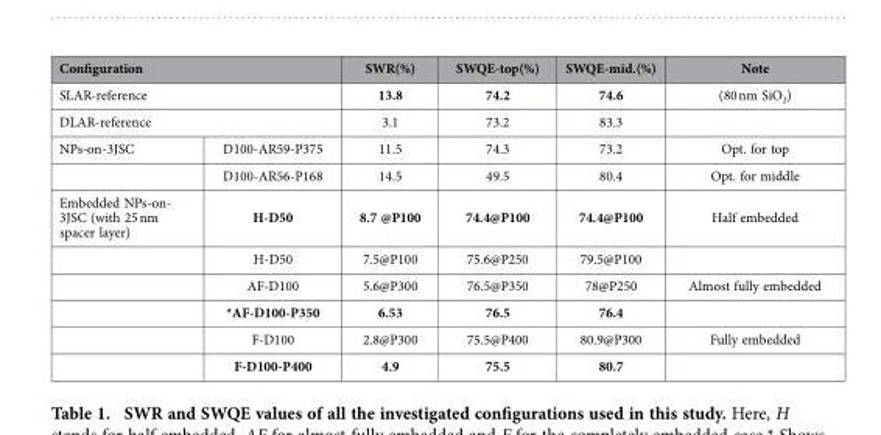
<table><thead><tr><td rowspan="3" colspan="2">Configuration SLAR-reference DLAR-reference</td><td rowspan="4">SWR(%) 13.8 3.1 11.5</td><td rowspan="4">SWQE-top(%) 74.2 73.2 74.3</td><td rowspan="4">SWQE-mid.(%) 74.6 83.3 73.2</td><td rowspan="4">Note (80 nm SiO<sub>2</sub>) Opt. for top</td></tr><tr></tr><tr></tr><tr><td>NPs-on-3JSC</td><td>D100-AR59-P375</td></tr></thead><tbody><tr><td></td><td>D100-AR56-P168</td><td>14.5</td><td>49.5</td><td>80.4</td><td>Opt. for middle</td></tr><tr><td rowspan="6">Embedded NPs-on- 3JSC (with 25 nm spacer layer)</td><td>H-D50</td><td>8.7 @P100</td><td>74.4@P100</td><td>74.4@P100</td><td>Half embedded</td></tr><tr><td>H-D50</td><td>7.5@P100</td><td>75.6@P250</td><td>79.5@P100</td><td></td></tr><tr><td>AF-D100</td><td>5.6@P300</td><td>76.5@P350</td><td>78@P250</td><td>Almost fully embedded</td></tr><tr><td>*AF-D100-P350</td><td>6.53</td><td>76.5</td><td>76.4</td><td></td></tr><tr><td>F-D100</td><td>2.8@P300</td><td>75.5@P400</td><td>80.9@P300</td><td>Fully embedded</td></tr><tr><td>F-D100-P400</td><td>4.9</td><td>75.5</td><td>80.7</td><td></td></tr></tbody></table>